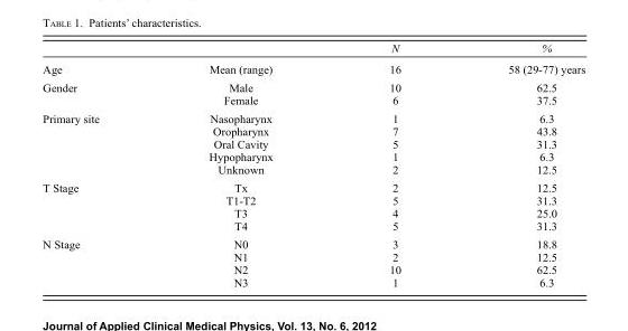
<table><thead><tr><td></td><td></td><td>N</td><td>%</td></tr></thead><tbody><tr><td>Age</td><td>Mean (range)</td><td>16</td><td>58 (29-77) years</td></tr><tr><td rowspan="2">Gender</td><td>Male</td><td>10</td><td>62.5</td></tr><tr><td>Female</td><td>6</td><td>37.5</td></tr><tr><td rowspan="5">Primary site</td><td>Nasopharynx</td><td>1</td><td>6.3</td></tr><tr><td>Oropharynx</td><td>7</td><td>43.8</td></tr><tr><td>Oral Cavity</td><td>5</td><td>31.3</td></tr><tr><td>Hypopharynx</td><td>1</td><td>6.3</td></tr><tr><td>Unknown</td><td>2</td><td>12.5</td></tr><tr><td rowspan="4">T Stage</td><td>Tx</td><td>2</td><td>12.5</td></tr><tr><td>T1-T2</td><td>5</td><td>31.3</td></tr><tr><td>T3</td><td>4</td><td>25.0</td></tr><tr><td>T4</td><td>5</td><td>31.3</td></tr><tr><td rowspan="4">N Stage</td><td>N0</td><td>3</td><td>18.8</td></tr><tr><td>N1</td><td>2</td><td>12.5</td></tr><tr><td>N2</td><td>10</td><td>62.5</td></tr><tr><td>N3</td><td>1</td><td>6.3</td></tr></tbody></table>